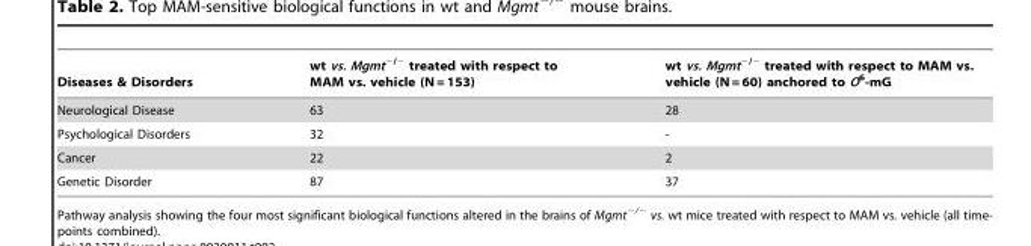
<table><thead><tr><td>Diseases &amp; Disorders</td><td>wt vs. Mgmt<sup>−/−</sup> treated with respect to MAM vs. vehicle (N = 153)</td><td>wt vs. Mgmt<sup>−/−</sup> treated with respect to MAM vs. vehicle (N = 60) anchored to O<sup>6</sup>-mG</td></tr></thead><tbody><tr><td>Neurological Disease</td><td>63</td><td>28</td></tr><tr><td>Psychological Disorders</td><td>32</td><td>-</td></tr><tr><td>Cancer</td><td>22</td><td>2</td></tr><tr><td>Genetic Disorder</td><td>87</td><td>37</td></tr></tbody></table>